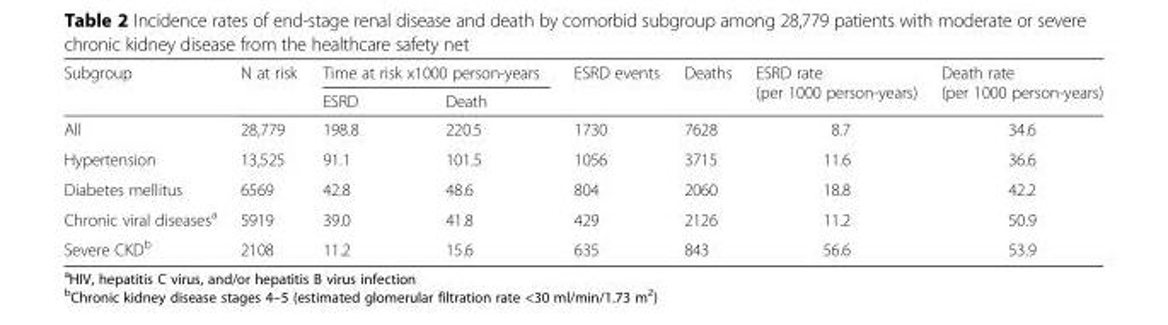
<table><thead><tr><td rowspan="2">Subgroup</td><td rowspan="2">N at risk</td><td colspan="2">Time at risk x1000 person-years</td><td rowspan="2">ESRD events</td><td rowspan="2">Deaths</td><td rowspan="2">ESRD rate (per 1000 person-years)</td><td rowspan="2">Death rate (per 1000 person-years)</td></tr><tr><td>ESRD</td><td>Death</td></tr></thead><tbody><tr><td>All</td><td>28,779</td><td>198.8</td><td>220.5</td><td>1730</td><td>7628</td><td>8.7</td><td>34.6</td></tr><tr><td>Hypertension</td><td>13,525</td><td>91.1</td><td>101.5</td><td>1056</td><td>3715</td><td>11.6</td><td>36.6</td></tr><tr><td>Diabetes mellitus</td><td>6569</td><td>42.8</td><td>48.6</td><td>804</td><td>2060</td><td>18.8</td><td>42.2</td></tr><tr><td>Chronic viral diseases<sup>a</sup></td><td>5919</td><td>39.0</td><td>41.8</td><td>429</td><td>2126</td><td>11.2</td><td>50.9</td></tr><tr><td>Severe CKD<sup>b</sup></td><td>2108</td><td>11.2</td><td>15.6</td><td>635</td><td>843</td><td>56.6</td><td>53.9</td></tr></tbody></table>